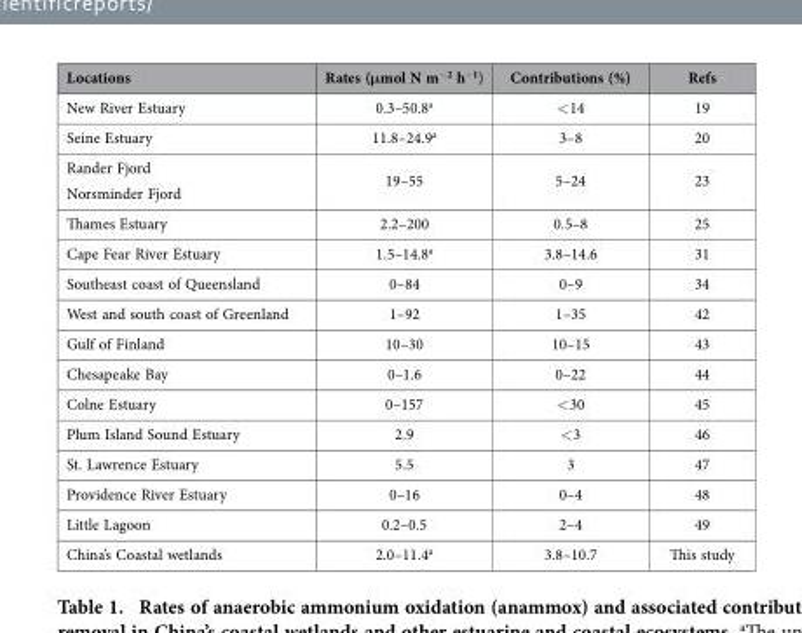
<table><thead><tr><td>Locations</td><td>Rates (μmol N m<sup>−2</sup> h<sup>−1</sup>)</td><td>Contributions (%)</td><td>Refs</td></tr></thead><tbody><tr><td>New River Estuary</td><td>0.3–50.8<sup>a</sup></td><td>&lt; 14</td><td>19</td></tr><tr><td>Seine Estuary</td><td>11.8–24.9<sup>a</sup></td><td>3–8</td><td>20</td></tr><tr><td>Rander Fjord</td><td rowspan="2">19–55</td><td rowspan="2">5–24</td><td rowspan="2">23</td></tr><tr><td>Norsminder Fjord</td></tr><tr><td>Thames Estuary</td><td>2.2–200</td><td>0.5–8</td><td>25</td></tr><tr><td>Cape Fear River Estuary</td><td>1.5–14.8<sup>a</sup></td><td>3.8–14.6</td><td>31</td></tr><tr><td>Southeast coast of Queensland</td><td>0–84</td><td>0–9</td><td>34</td></tr><tr><td>West and south coast of Greenland</td><td>1–92</td><td>1–35</td><td>42</td></tr><tr><td>Gulf of Finland</td><td>10–30</td><td>10–15</td><td>43</td></tr><tr><td>Chesapeake Bay</td><td>0–1.6</td><td>0–22</td><td>44</td></tr><tr><td>Colne Estuary</td><td>0–157</td><td>&lt; 30</td><td>45</td></tr><tr><td>Plum Island Sound Estuary</td><td>2.9</td><td>&lt; 3</td><td>46</td></tr><tr><td>St. Lawrence Estuary</td><td>5.5</td><td>3</td><td>47</td></tr><tr><td>Providence River Estuary</td><td>0–16</td><td>0–4</td><td>48</td></tr><tr><td>Little Lagoon</td><td>0.2–0.5</td><td>2–4</td><td>49</td></tr><tr><td>China’s Coastal wetlands</td><td>2.0–11.4<sup>a</sup></td><td>3.8–10.7</td><td>This study</td></tr></tbody></table>